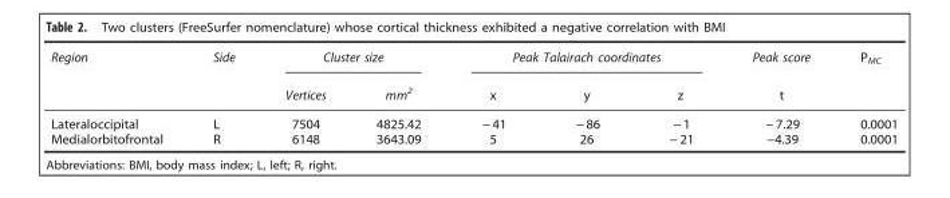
<table><thead><tr><td rowspan="2">Region</td><td rowspan="2">Side</td><td colspan="2">Cluster size</td><td colspan="3">Peak Talairach coordinates</td><td rowspan="2">Peak score t</td><td rowspan="2">P<sub>MC</sub></td></tr><tr><td>Vertices</td><td>mm<sup>2</sup></td><td>x</td><td>y</td><td>z</td></tr></thead><tbody><tr><td>Lateraloccipital</td><td>L</td><td>7504</td><td>4825.42</td><td>− 41</td><td>− 86</td><td>− 1</td><td>− 7.29</td><td>0.0001</td></tr><tr><td>Medialorbitofrontal</td><td>R</td><td>6148</td><td>3643.09</td><td>5</td><td>26</td><td>− 21</td><td>−4.39</td><td>0.0001</td></tr></tbody></table>